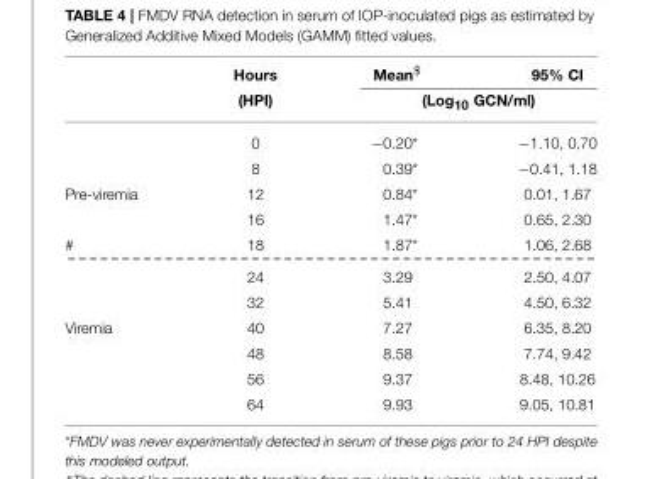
<table><thead><tr><td rowspan="2"></td><td rowspan="2">Hours (HPI)</td><td>Mean$</td><td>95% CI</td></tr><tr><td colspan="2">(Log<sub>10</sub> GCN/ml)</td></tr></thead><tbody><tr><td></td><td>0</td><td>−0.20*</td><td>−1.10, 0.70</td></tr><tr><td></td><td>8</td><td>0.39*</td><td>−0.41, 1.18</td></tr><tr><td rowspan="2">Pre-viremia</td><td>12</td><td>0.84*</td><td>0.01, 1.67</td></tr><tr><td>16</td><td>1.47*</td><td>0.65, 2.30</td></tr><tr><td rowspan="3">#</td><td>18</td><td>1.87*</td><td>1.06, 2.68</td></tr><tr><td>24</td><td>3.29</td><td>2.50, 4.07</td></tr><tr><td>32</td><td>5.41</td><td>4.50, 6.32</td></tr><tr><td rowspan="4">Viremia</td><td>40</td><td>7.27</td><td>6.35, 8.20</td></tr><tr><td>48</td><td>8.58</td><td>7.74, 9.42</td></tr><tr><td>56</td><td>9.37</td><td>8.48, 10.26</td></tr><tr><td>64</td><td>9.93</td><td>9.05, 10.81</td></tr></tbody></table>